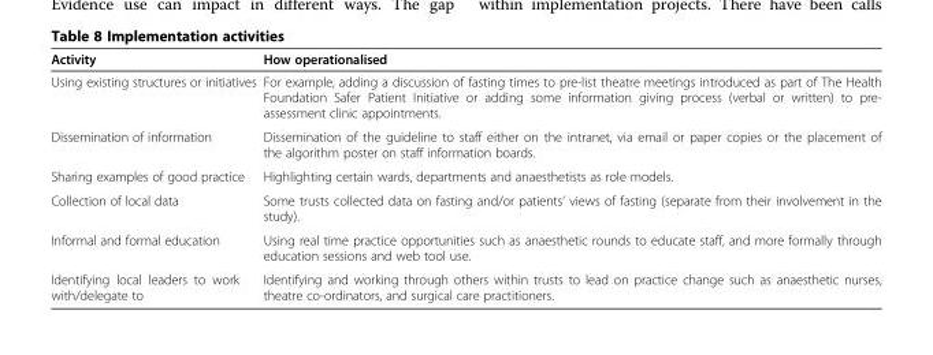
<table><thead><tr><td>Activity</td><td>How operationalised</td></tr></thead><tbody><tr><td>Using existing structures or initiatives</td><td>For example, adding a discussion of fasting times to pre-list theatre meetings introduced as part of The Health Foundation Safer Patient Initiative or adding some information giving process (verbal or written) to pre- assessment clinic appointments.</td></tr><tr><td>Dissemination of information</td><td>Dissemination of the guideline to staff either on the intranet, via email or paper copies or the placement of the algorithm poster on staff information boards.</td></tr><tr><td>Sharing examples of good practice</td><td>Highlighting certain wards, departments and anaesthetists as role models.</td></tr><tr><td>Collection of local data</td><td>Some trusts collected data on fasting and/or patients’ views of fasting (separate from their involvement in the study).</td></tr><tr><td>Informal and formal education</td><td>Using real time practice opportunities such as anaesthetic rounds to educate staff, and more formally through education sessions and web tool use.</td></tr><tr><td>Identifying local leaders to work with/delegate to</td><td>Identifying and working through others within trusts to lead on practice change such as anaesthetic nurses, theatre co-ordinators, and surgical care practitioners.</td></tr></tbody></table>